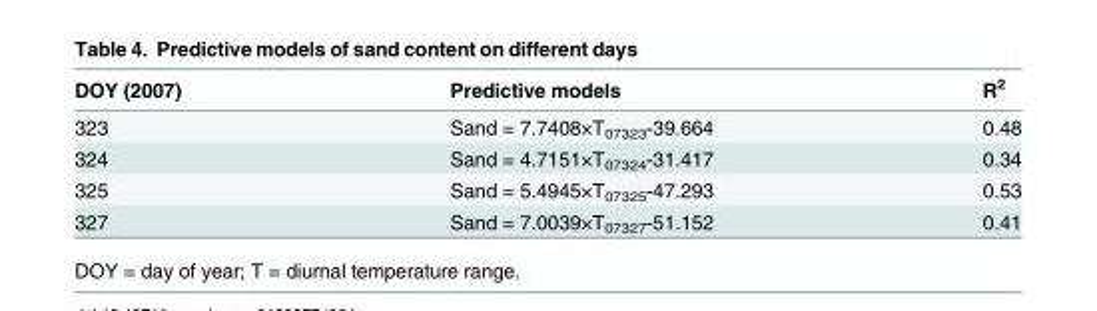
<table><thead><tr><td>DOY (2007)</td><td>Predictive models</td><td>R<sup>2</sup></td></tr></thead><tbody><tr><td>323</td><td>Sand = 7.7408×T<sub>07323</sub>-39.664</td><td>0.48</td></tr><tr><td>324</td><td>Sand = 4.7151×T<sub>07324</sub>-31.417</td><td>0.34</td></tr><tr><td>325</td><td>Sand = 5.4945×T<sub>07325</sub>-47.293</td><td>0.53</td></tr><tr><td>327</td><td>Sand = 7.0039×T<sub>07327</sub>-51.152</td><td>0.41</td></tr></tbody></table>